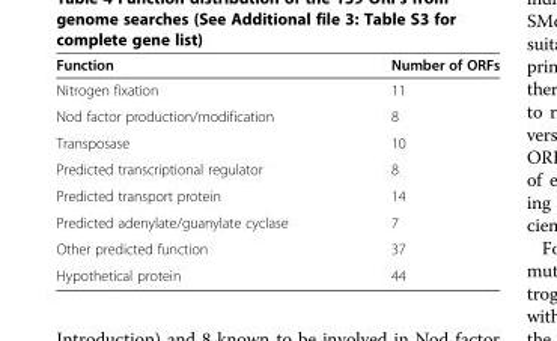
<table><thead><tr><td>Function</td><td>Number of ORFs</td></tr></thead><tbody><tr><td>Nitrogen fixation</td><td>11</td></tr><tr><td>Nod factor production/modification</td><td>8</td></tr><tr><td>Transposase</td><td>10</td></tr><tr><td>Predicted transcriptional regulator</td><td>8</td></tr><tr><td>Predicted transport protein</td><td>14</td></tr><tr><td>Predicted adenylate/guanylate cyclase</td><td>7</td></tr><tr><td>Other predicted function</td><td>37</td></tr><tr><td>Hypothetical protein</td><td>44</td></tr></tbody></table>